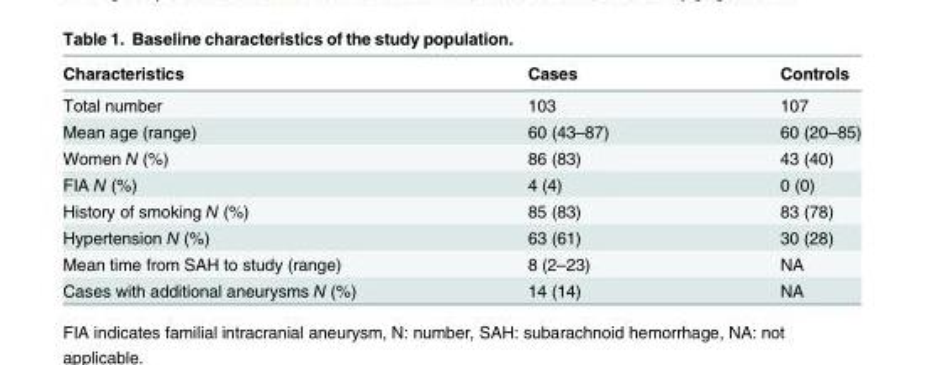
<table><thead><tr><td>Characteristics</td><td>Cases</td><td>Controls</td></tr></thead><tbody><tr><td>Total number</td><td>103</td><td>107</td></tr><tr><td>Mean age (range)</td><td>60 (43–87)</td><td>60 (20–85)</td></tr><tr><td>Women N (%)</td><td>86 (83)</td><td>43 (40)</td></tr><tr><td>FIA N (%)</td><td>4 (4)</td><td>0 (0)</td></tr><tr><td>History of smoking N (%)</td><td>85 (83)</td><td>83 (78)</td></tr><tr><td>Hypertension N (%)</td><td>63 (61)</td><td>30 (28)</td></tr><tr><td>Mean time from SAH to study (range)</td><td>8 (2–23)</td><td>NA</td></tr><tr><td>Cases with additional aneurysms N (%)</td><td>14 (14)</td><td>NA</td></tr></tbody></table>